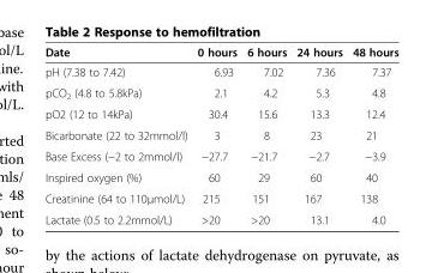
<table><thead><tr><td>Date</td><td>0 hours</td><td>6 hours</td><td>24 hours</td><td>48 hours</td></tr></thead><tbody><tr><td>pH (7.38 to 7.42)</td><td>6.93</td><td>7.02</td><td>7.36</td><td>7.37</td></tr><tr><td>pCO<sub>2</sub> (4.8 to 5.8kPa)</td><td>2.1</td><td>4.2</td><td>5.3</td><td>4.8</td></tr><tr><td>pO2 (12 to 14kPa)</td><td>30.4</td><td>15.6</td><td>13.3</td><td>12.4</td></tr><tr><td>Bicarbonate (22 to 32mmol/l)</td><td>3</td><td>8</td><td>23</td><td>21</td></tr><tr><td>Base Excess (−2 to 2mmol/l)</td><td>−27.7</td><td>−21.7</td><td>−2.7</td><td>−3.9</td></tr><tr><td>Inspired oxygen (%)</td><td>60</td><td>29</td><td>60</td><td>40</td></tr><tr><td>Creatinine (64 to 110μmol/L)</td><td>215</td><td>151</td><td>167</td><td>138</td></tr><tr><td>Lactate (0.5 to 2.2mmol/L)</td><td>&gt;20</td><td>&gt;20</td><td>13.1</td><td>4.0</td></tr></tbody></table>